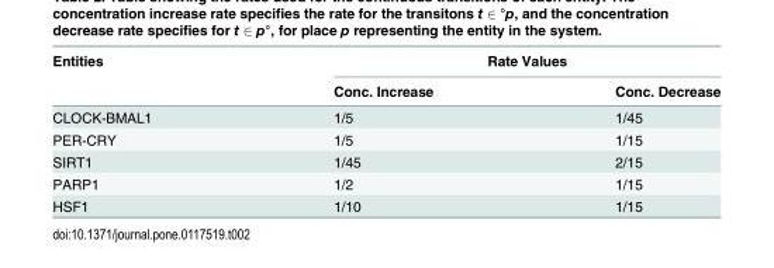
<table><thead><tr><td rowspan="2">Entities</td><td colspan="2">Rate Values</td></tr><tr><td>Conc. Increase</td><td>Conc. Decrease</td></tr></thead><tbody><tr><td>CLOCK-BMAL1</td><td>1/5</td><td>1/45</td></tr><tr><td>PER-CRY</td><td>1/5</td><td>1/15</td></tr><tr><td>SIRT1</td><td>1/45</td><td>2/15</td></tr><tr><td>PARP1</td><td>1/2</td><td>1/15</td></tr><tr><td>HSF1</td><td>1/10</td><td>1/15</td></tr></tbody></table>